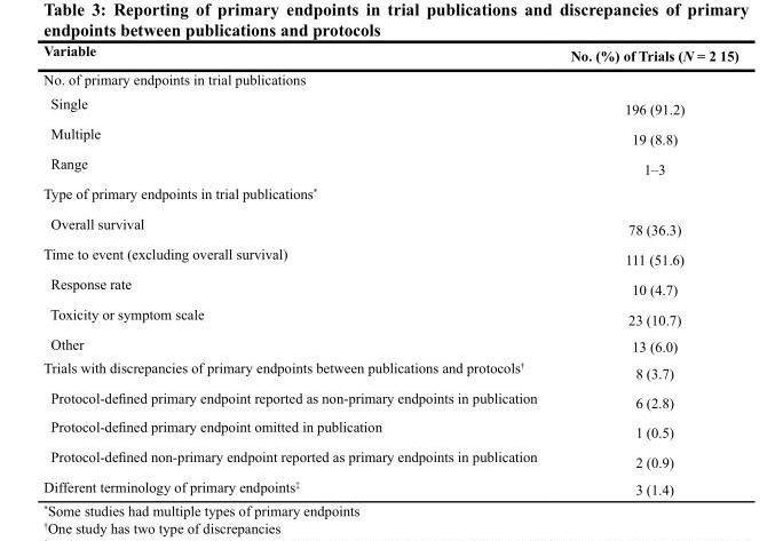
<table><thead><tr><td>Variable</td><td>No. (%) of Trials (N = 2 15)</td></tr></thead><tbody><tr><td colspan="2">No. of primary endpoints in trial publications</td></tr><tr><td>Single</td><td>196 (91.2)</td></tr><tr><td>Multiple</td><td>19 (8.8)</td></tr><tr><td>Range</td><td>1–3</td></tr><tr><td colspan="2">Type of primary endpoints in trial publications*</td></tr><tr><td>Overall survival</td><td>78 (36.3)</td></tr><tr><td>Time to event (excluding overall survival)</td><td>111 (51.6)</td></tr><tr><td>Response rate</td><td>10 (4.7)</td></tr><tr><td>Toxicity or symptom scale</td><td>23 (10.7)</td></tr><tr><td>Other</td><td>13 (6.0)</td></tr><tr><td>Trials with discrepancies of primary endpoints between publications and protocols<sup>†</sup></td><td>8 (3.7)</td></tr><tr><td>Protocol-defined primary endpoint reported as non-primary endpoints in publication</td><td>6 (2.8)</td></tr><tr><td>Protocol-defined primary endpoint omitted in publication</td><td>1 (0.5)</td></tr><tr><td>Protocol-defined non-primary endpoint reported as primary endpoints in publication</td><td>2 (0.9)</td></tr><tr><td>Different terminology of primary endpoints<sup>‡</sup></td><td>3 (1.4)</td></tr></tbody></table>